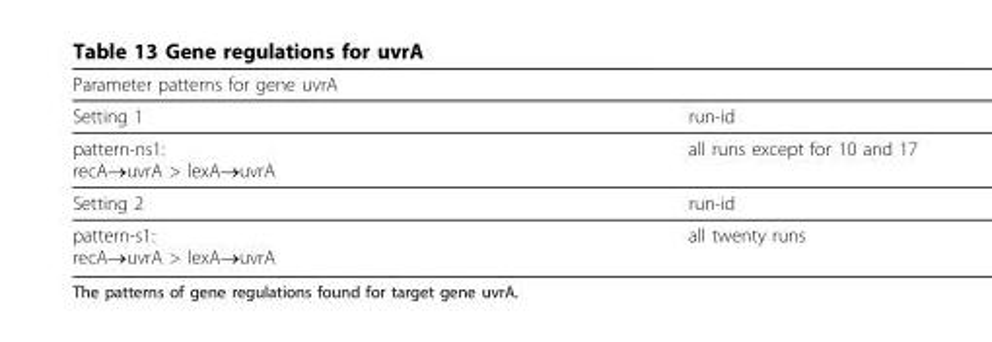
<table><thead><tr><td>Parameter patterns for gene uvrA</td><td></td></tr></thead><tbody><tr><td>Setting 1</td><td>run-id</td></tr><tr><td>pattern-ns1: recA→uvrA &gt; lexA→uvrA</td><td>all runs except for 10 and 17</td></tr><tr><td>Setting 2</td><td>run-id</td></tr><tr><td>pattern-s1: recA→uvrA &gt; lexA→uvrA</td><td>all twenty runs</td></tr></tbody></table>